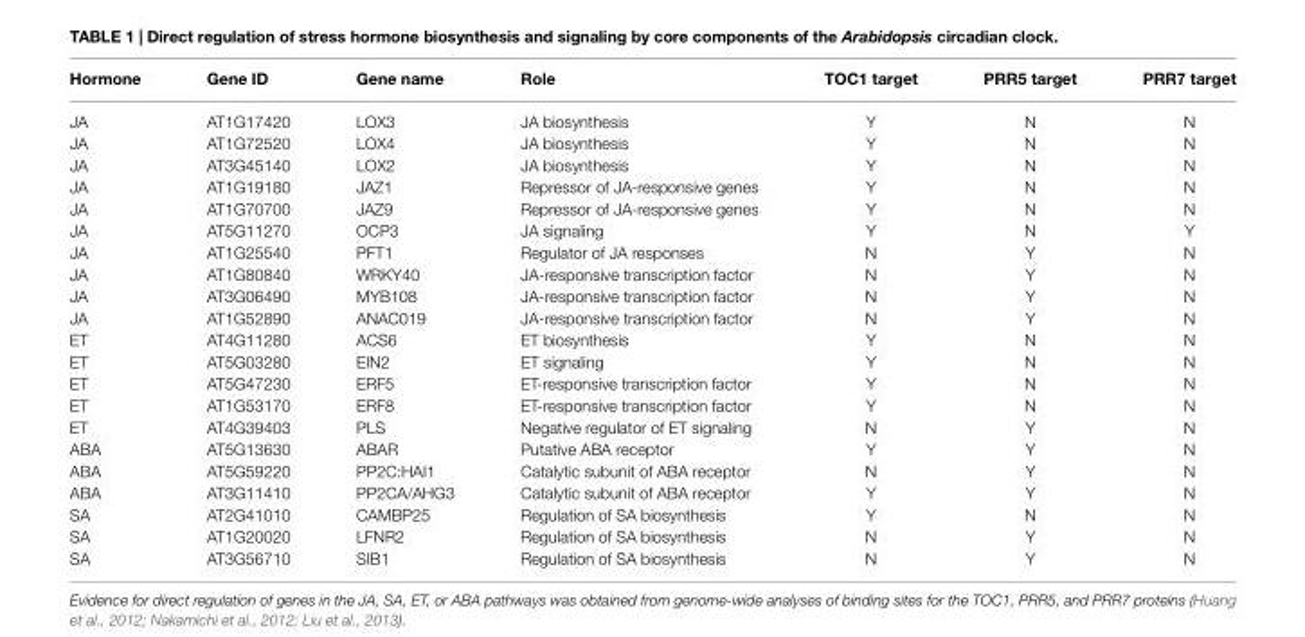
<table><thead><tr><td>Hormone</td><td>Gene ID</td><td>Gene name</td><td>Role</td><td>TOC1 target</td><td>PRR5 target</td><td>PRR7 target</td></tr></thead><tbody><tr><td>JA</td><td>AT1G17420</td><td>LOX3</td><td>JA biosynthesis</td><td>Y</td><td>N</td><td>N</td></tr><tr><td>JA</td><td>AT1G72520</td><td>LOX4</td><td>JA biosynthesis</td><td>Y</td><td>N</td><td>N</td></tr><tr><td>JA</td><td>AT3G45140</td><td>LOX2</td><td>JA biosynthesis</td><td>Y</td><td>N</td><td>N</td></tr><tr><td>JA</td><td>AT1G19180</td><td>JAZ1</td><td>Repressor of JA-responsive genes</td><td>Y</td><td>N</td><td>N</td></tr><tr><td>JA</td><td>AT1G70700</td><td>JAZ9</td><td>Repressor of JA-responsive genes</td><td>Y</td><td>N</td><td>N</td></tr><tr><td>JA</td><td>AT5G11270</td><td>OCP3</td><td>JA signaling</td><td>Y</td><td>N</td><td>Y</td></tr><tr><td>JA</td><td>AT1G25540</td><td>PFT1</td><td>Regulator of JA responses</td><td>N</td><td>Y</td><td>N</td></tr><tr><td>JA</td><td>AT1G80840</td><td>WRKY40</td><td>JA-responsive transcription factor</td><td>N</td><td>Y</td><td>N</td></tr><tr><td>JA</td><td>AT3G06490</td><td>MYB108</td><td>JA-responsive transcription factor</td><td>N</td><td>Y</td><td>N</td></tr><tr><td>JA</td><td>AT1G52890</td><td>ANAC019</td><td>JA-responsive transcription factor</td><td>N</td><td>Y</td><td>N</td></tr><tr><td>ET</td><td>AT4G11280</td><td>ACS6</td><td>ET biosynthesis</td><td>Y</td><td>N</td><td>N</td></tr><tr><td>ET</td><td>AT5G03280</td><td>EIN2</td><td>ET signaling</td><td>Y</td><td>N</td><td>N</td></tr><tr><td>ET</td><td>AT5G47230</td><td>ERF5</td><td>ET-responsive transcription factor</td><td>Y</td><td>N</td><td>N</td></tr><tr><td>ET</td><td>AT1G53170</td><td>ERF8</td><td>ET-responsive transcription factor</td><td>Y</td><td>N</td><td>N</td></tr><tr><td>ET</td><td>AT4G39403</td><td>PLS</td><td>Negative regulator of ET signaling</td><td>N</td><td>Y</td><td>N</td></tr><tr><td>ABA</td><td>AT5G13630</td><td>ABAR</td><td>Putative ABA receptor</td><td>Y</td><td>Y</td><td>N</td></tr><tr><td>ABA</td><td>AT5G59220</td><td>PP2C:HAI1</td><td>Catalytic subunit of ABA receptor</td><td>N</td><td>Y</td><td>N</td></tr><tr><td>ABA</td><td>AT3G11410</td><td>PP2CA/AHG3</td><td>Catalytic subunit of ABA receptor</td><td>Y</td><td>Y</td><td>N</td></tr><tr><td>SA</td><td>AT2G41010</td><td>CAMBP25</td><td>Regulation of SA biosynthesis</td><td>Y</td><td>N</td><td>N</td></tr><tr><td>SA</td><td>AT1G20020</td><td>LFNR2</td><td>Regulation of SA biosynthesis</td><td>N</td><td>Y</td><td>N</td></tr><tr><td>SA</td><td>AT3G56710</td><td>SIB1</td><td>Regulation of SA biosynthesis</td><td>N</td><td>Y</td><td>N</td></tr></tbody></table>